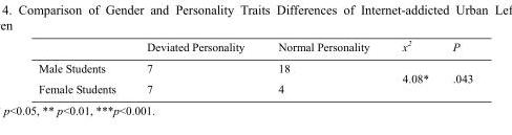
<table><thead><tr><td></td><td>Deviated Personality</td><td>Normal Personality</td><td>x<sup>2</sup></td><td>P</td></tr></thead><tbody><tr><td>Male Students</td><td>7</td><td>18</td><td rowspan="2">4.08*</td><td rowspan="2">.043</td></tr><tr><td>Female Students</td><td>7</td><td>4</td></tr></tbody></table>